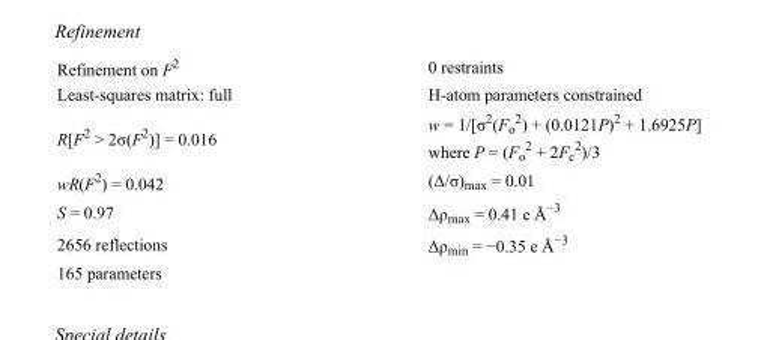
<table><tbody><tr><td>Refinement on F<sup>2</sup></td><td>0 restraints</td></tr><tr><td>Least-squares matrix: full</td><td>H-atom parameters constrained</td></tr><tr><td>R[F<sup>2</sup> &gt; 2σ(F<sup>2</sup>)] = 0.016</td><td>w = 1/[σ<sup>2</sup>(F<sub>o</sub> <sup>2</sup>) + (0.0121P)<sup>2</sup> + 1.6925P] where P = (F<sub>o</sub> <sup>2</sup> + 2F<sub>c</sub> <sup>2</sup>)/3</td></tr><tr><td>wR(F<sup>2</sup>) = 0.042</td><td>(Δ/σ)<sub>max</sub> = 0.01</td></tr><tr><td>S = 0.97</td><td>Δρ<sub>max</sub> = 0.41 e Å<sup>−3</sup></td></tr><tr><td>2656 reflections</td><td>Δρ<sub>min</sub> = −0.35 e Å<sup>−3</sup></td></tr><tr><td>165 parameters</td><td></td></tr></tbody></table>